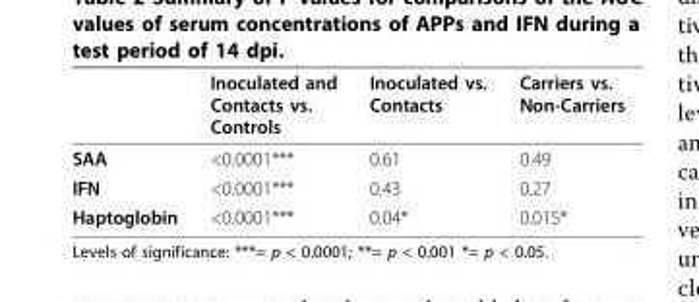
<table><thead><tr><td></td><td>Inoculated and Contacts vs. Controls</td><td>Inoculated vs. Contacts</td><td>Carriers vs. Non-Carriers</td></tr></thead><tbody><tr><td>SAA</td><td>&lt;0.0001***</td><td>0.61</td><td>0.49</td></tr><tr><td>IFN</td><td>&lt;0.0001***</td><td>0.43</td><td>0.27</td></tr><tr><td>Haptoglobin</td><td>&lt;0.0001***</td><td>0.04*</td><td>0.015*</td></tr></tbody></table>